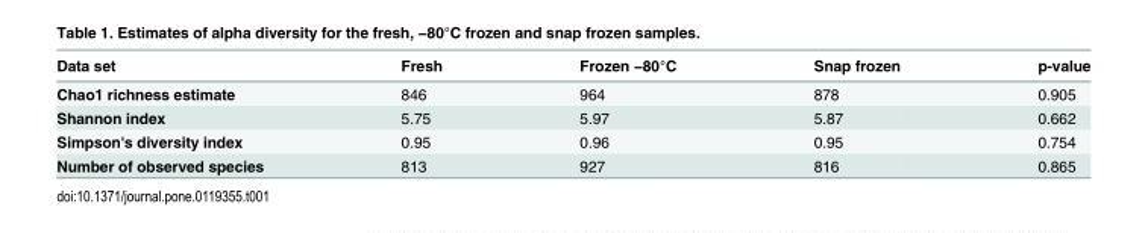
<table><thead><tr><td>Data set</td><td>Fresh</td><td>Frozen −80°C</td><td>Snap frozen</td><td>p-value</td></tr></thead><tbody><tr><td>Chao1 richness estimate</td><td>846</td><td>964</td><td>878</td><td>0.905</td></tr><tr><td>Shannon index</td><td>5.75</td><td>5.97</td><td>5.87</td><td>0.662</td></tr><tr><td>Simpson&#x27;s diversity index</td><td>0.95</td><td>0.96</td><td>0.95</td><td>0.754</td></tr><tr><td>Number of observed species</td><td>813</td><td>927</td><td>816</td><td>0.865</td></tr></tbody></table>